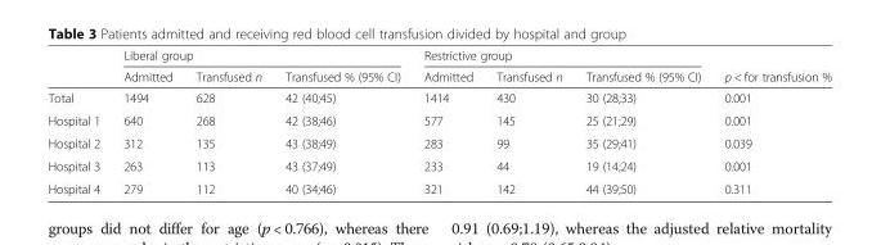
<table><thead><tr><td rowspan="2"></td><td colspan="3">Liberal group</td><td colspan="3">Restrictive group</td><td rowspan="2">p &lt; for transfusion %</td></tr><tr><td>Admitted</td><td>Transfused n</td><td>Transfused % (95% CI)</td><td>Admitted</td><td>Transfused n</td><td>Transfused % (95% CI)</td></tr></thead><tbody><tr><td>Total</td><td>1494</td><td>628</td><td>42 (40;45)</td><td>1414</td><td>430</td><td>30 (28;33)</td><td>0.001</td></tr><tr><td>Hospital 1</td><td>640</td><td>268</td><td>42 (38;46)</td><td>577</td><td>145</td><td>25 (21;29)</td><td>0.001</td></tr><tr><td>Hospital 2</td><td>312</td><td>135</td><td>43 (38;49)</td><td>283</td><td>99</td><td>35 (29;41)</td><td>0.039</td></tr><tr><td>Hospital 3</td><td>263</td><td>113</td><td>43 (37;49)</td><td>233</td><td>44</td><td>19 (14;24)</td><td>0.001</td></tr><tr><td>Hospital 4</td><td>279</td><td>112</td><td>40 (34;46)</td><td>321</td><td>142</td><td>44 (39;50)</td><td>0.311</td></tr></tbody></table>